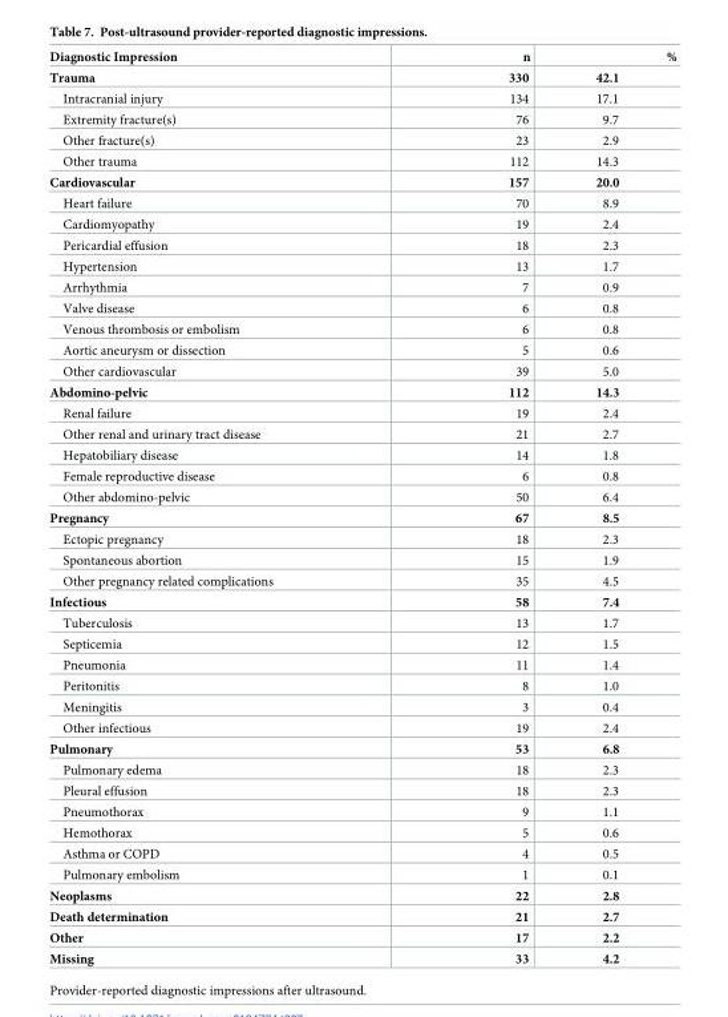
<table><thead><tr><td>Diagnostic Impression</td><td>n</td><td>%</td></tr></thead><tbody><tr><td>Trauma</td><td>330</td><td>42.1</td></tr><tr><td>Intracranial injury</td><td>134</td><td>17.1</td></tr><tr><td>Extremity fracture(s)</td><td>76</td><td>9.7</td></tr><tr><td>Other fracture(s)</td><td>23</td><td>2.9</td></tr><tr><td>Other trauma</td><td>112</td><td>14.3</td></tr><tr><td>Cardiovascular</td><td>157</td><td>20.0</td></tr><tr><td>Heart failure</td><td>70</td><td>8.9</td></tr><tr><td>Cardiomyopathy</td><td>19</td><td>2.4</td></tr><tr><td>Pericardial effusion</td><td>18</td><td>2.3</td></tr><tr><td>Hypertension</td><td>13</td><td>1.7</td></tr><tr><td>Arrhythmia</td><td>7</td><td>0.9</td></tr><tr><td>Valve disease</td><td>6</td><td>0.8</td></tr><tr><td>Venous thrombosis or embolism</td><td>6</td><td>0.8</td></tr><tr><td>Aortic aneurysm or dissection</td><td>5</td><td>0.6</td></tr><tr><td>Other cardiovascular</td><td>39</td><td>5.0</td></tr><tr><td>Abdomino-pelvic</td><td>112</td><td>14.3</td></tr><tr><td>Renal failure</td><td>19</td><td>2.4</td></tr><tr><td>Other renal and urinary tract disease</td><td>21</td><td>2.7</td></tr><tr><td>Hepatobiliary disease</td><td>14</td><td>1.8</td></tr><tr><td>Female reproductive disease</td><td>6</td><td>0.8</td></tr><tr><td>Other abdomino-pelvic</td><td>50</td><td>6.4</td></tr><tr><td>Pregnancy</td><td>67</td><td>8.5</td></tr><tr><td>Ectopic pregnancy</td><td>18</td><td>2.3</td></tr><tr><td>Spontaneous abortion</td><td>15</td><td>1.9</td></tr><tr><td>Other pregnancy related complications</td><td>35</td><td>4.5</td></tr><tr><td>Infectious</td><td>58</td><td>7.4</td></tr><tr><td>Tuberculosis</td><td>13</td><td>1.7</td></tr><tr><td>Septicemia</td><td>12</td><td>1.5</td></tr><tr><td>Pneumonia</td><td>11</td><td>1.4</td></tr><tr><td>Peritonitis</td><td>8</td><td>1.0</td></tr><tr><td>Meningitis</td><td>3</td><td>0.4</td></tr><tr><td>Other infectious</td><td>19</td><td>2.4</td></tr><tr><td>Pulmonary</td><td>53</td><td>6.8</td></tr><tr><td>Pulmonary edema</td><td>18</td><td>2.3</td></tr><tr><td>Pleural effusion</td><td>18</td><td>2.3</td></tr><tr><td>Pneumothorax</td><td>9</td><td>1.1</td></tr><tr><td>Hemothorax</td><td>5</td><td>0.6</td></tr><tr><td>Asthma or COPD</td><td>4</td><td>0.5</td></tr><tr><td>Pulmonary embolism</td><td>1</td><td>0.1</td></tr><tr><td>Neoplasms</td><td>22</td><td>2.8</td></tr><tr><td>Death determination</td><td>21</td><td>2.7</td></tr><tr><td>Other</td><td>17</td><td>2.2</td></tr><tr><td>Missing</td><td>33</td><td>4.2</td></tr></tbody></table>